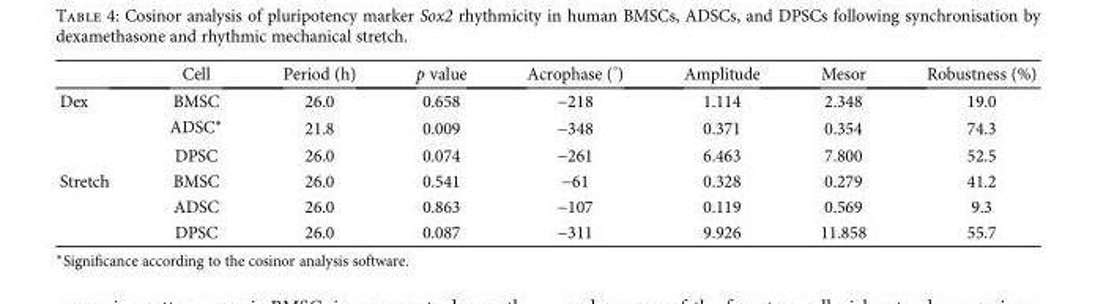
<table><thead><tr><td></td><td>Cell</td><td>Period (h)</td><td>p value</td><td>Acrophase (°)</td><td>Amplitude</td><td>Mesor</td><td>Robustness (%)</td></tr></thead><tbody><tr><td rowspan="3">Dex</td><td>BMSC</td><td>26.0</td><td>0.658</td><td>−218</td><td>1.114</td><td>2.348</td><td>19.0</td></tr><tr><td>ADSC∗</td><td>21.8</td><td>0.009</td><td>−348</td><td>0.371</td><td>0.354</td><td>74.3</td></tr><tr><td>DPSC</td><td>26.0</td><td>0.074</td><td>−261</td><td>6.463</td><td>7.800</td><td>52.5</td></tr><tr><td rowspan="3">Stretch</td><td>BMSC</td><td>26.0</td><td>0.541</td><td>−61</td><td>0.328</td><td>0.279</td><td>41.2</td></tr><tr><td>ADSC</td><td>26.0</td><td>0.863</td><td>−107</td><td>0.119</td><td>0.569</td><td>9.3</td></tr><tr><td>DPSC</td><td>26.0</td><td>0.087</td><td>−311</td><td>9.926</td><td>11.858</td><td>55.7</td></tr></tbody></table>